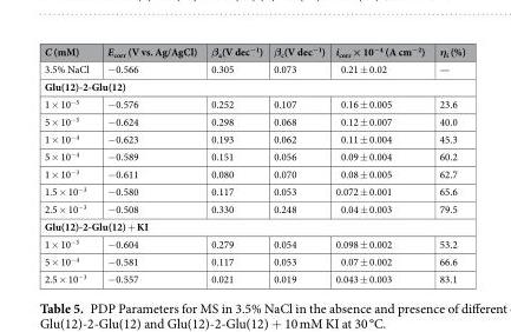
<table><thead><tr><td>C (mM)</td><td>E<sub>corr</sub> (V vs. Ag/AgCl)</td><td>β<sub>a</sub>(V dec<sup>−1</sup>)</td><td>β<sub>c</sub>(V dec<sup>−1</sup>)</td><td>i<sub>corr</sub> × 10<sup>−4</sup> (A cm<sup>−2</sup>)</td><td>η<sub>i</sub> (%)</td></tr></thead><tbody><tr><td>3.5% NaCl</td><td>−0.566</td><td>0.305</td><td>0.073</td><td>0.21 ± 0.02</td><td>—</td></tr><tr><td colspan="6">Glu(12)-2-Glu(12)</td></tr><tr><td>1 × 10<sup>−5</sup></td><td>−0.576</td><td>0.252</td><td>0.107</td><td>0.16 ± 0.005</td><td>23.6</td></tr><tr><td>5 × 10<sup>−5</sup></td><td>−0.624</td><td>0.298</td><td>0.068</td><td>0.12 ± 0.007</td><td>40.0</td></tr><tr><td>1 × 10<sup>−4</sup></td><td>−0.623</td><td>0.193</td><td>0.062</td><td>0.11 ± 0.004</td><td>45.3</td></tr><tr><td>5 × 10<sup>−4</sup></td><td>−0.589</td><td>0.151</td><td>0.056</td><td>0.09 ± 0.004</td><td>60.2</td></tr><tr><td>1 × 10<sup>−3</sup></td><td>−0.611</td><td>0.080</td><td>0.070</td><td>0.08 ± 0.005</td><td>62.7</td></tr><tr><td>1.5 × 10<sup>−3</sup></td><td>−0.580</td><td>0.117</td><td>0.053</td><td>0.072 ± 0.001</td><td>65.6</td></tr><tr><td>2.5 × 10<sup>−3</sup></td><td>−0.508</td><td>0.330</td><td>0.248</td><td>0.04 ± 0.003</td><td>79.5</td></tr><tr><td colspan="6">Glu(12)-2-Glu(12) + KI</td></tr><tr><td>1 × 10<sup>−5</sup></td><td>−0.604</td><td>0.279</td><td>0.054</td><td>0.098 ± 0.002</td><td>53.2</td></tr><tr><td>5 × 10<sup>−4</sup></td><td>−0.581</td><td>0.117</td><td>0.053</td><td>0.07 ± 0.002</td><td>66.6</td></tr><tr><td>2.5 × 10<sup>−3</sup></td><td>−0.557</td><td>0.021</td><td>0.019</td><td>0.043 ± 0.003</td><td>83.1</td></tr></tbody></table>